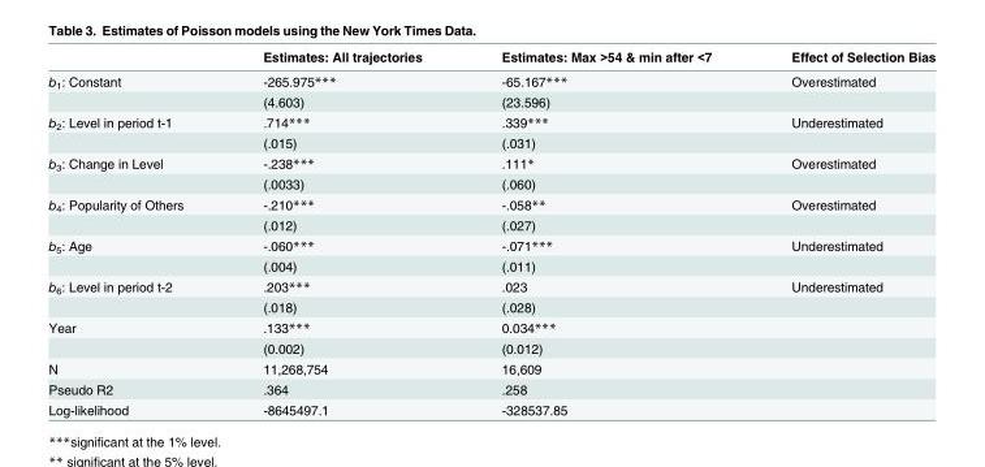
<table><thead><tr><td></td><td>Estimates: All trajectories</td><td>Estimates: Max &gt;54 &amp; min after &lt;7</td><td>Effect of Selection Bias</td></tr></thead><tbody><tr><td rowspan="2">b<sub>1</sub>: Constant</td><td>-265.975***</td><td>-65.167***</td><td>Overestimated</td></tr><tr><td>(4.603)</td><td>(23.596)</td><td></td></tr><tr><td rowspan="2">b<sub>2</sub>: Level in period t-1</td><td>.714***</td><td>.339***</td><td>Underestimated</td></tr><tr><td>(.015)</td><td>(.031)</td><td></td></tr><tr><td rowspan="2">b<sub>3</sub>: Change in Level</td><td>-.238***</td><td>.111*</td><td>Overestimated</td></tr><tr><td>(.0033)</td><td>(.060)</td><td></td></tr><tr><td rowspan="2">b<sub>4</sub>: Popularity of Others</td><td>-.210***</td><td>-.058**</td><td>Overestimated</td></tr><tr><td>(.012)</td><td>(.027)</td><td></td></tr><tr><td rowspan="2">b<sub>5</sub>: Age</td><td>-.060***</td><td>-.071***</td><td>Underestimated</td></tr><tr><td>(.004)</td><td>(.011)</td><td></td></tr><tr><td rowspan="2">b<sub>6</sub>: Level in period t-2</td><td>.203***</td><td>.023</td><td>Underestimated</td></tr><tr><td>(.018)</td><td>(.028)</td><td></td></tr><tr><td rowspan="2">Year</td><td>.133***</td><td>0.034***</td><td></td></tr><tr><td>(0.002)</td><td>(0.012)</td><td></td></tr><tr><td>N</td><td>11,268,754</td><td>16,609</td><td></td></tr><tr><td>Pseudo R2</td><td>.364</td><td>.258</td><td></td></tr><tr><td>Log-likelihood</td><td>-8645497.1</td><td>-328537.85</td><td></td></tr></tbody></table>